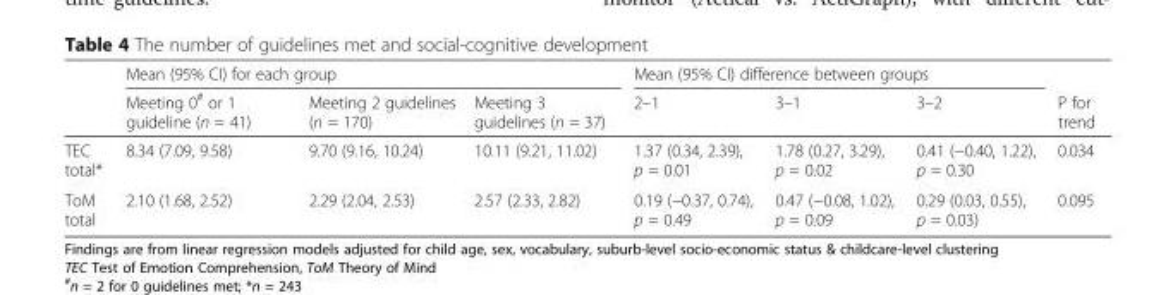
<table><thead><tr><td rowspan="2"></td><td colspan="3">Mean (95% CI) for each group</td><td colspan="3">Mean (95% CI) difference between groups</td><td rowspan="2">P for trend</td></tr><tr><td>Meeting 0<sup>#</sup> or 1 guideline (n = 41)</td><td>Meeting 2 guidelines (n = 170)</td><td>Meeting 3 guidelines (n = 37)</td><td>2–1</td><td>3–1</td><td>3–2</td></tr></thead><tbody><tr><td>TEC total*</td><td>8.34 (7.09, 9.58)</td><td>9.70 (9.16, 10.24)</td><td>10.11 (9.21, 11.02)</td><td>1.37 (0.34, 2.39), p = 0.01</td><td>1.78 (0.27, 3.29), p = 0.02</td><td>0.41 (−0.40, 1.22), p = 0.30</td><td>0.034</td></tr><tr><td>ToM total</td><td>2.10 (1.68, 2.52)</td><td>2.29 (2.04, 2.53)</td><td>2.57 (2.33, 2.82)</td><td>0.19 (−0.37, 0.74), p = 0.49</td><td>0.47 (−0.08, 1.02), p = 0.09</td><td>0.29 (0.03, 0.55), p = 0.03)</td><td>0.095</td></tr></tbody></table>